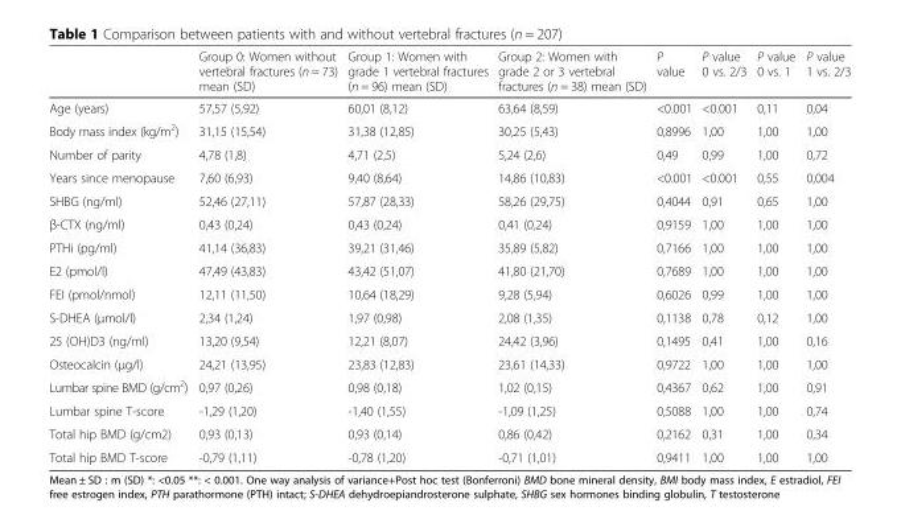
<table><thead><tr><td></td><td>Group 0: Women without vertebral fractures (n = 73) mean (SD)</td><td>Group 1: Women with grade 1 vertebral fractures (n = 96) mean (SD)</td><td>Group 2: Women with grade 2 or 3 vertebral fractures (n = 38) mean (SD)</td><td>P value</td><td>P value 0 vs. 2/3</td><td>P value 0 vs. 1</td><td>P value 1 vs. 2/3</td></tr></thead><tbody><tr><td>Age (years)</td><td>57,57 (5,92)</td><td>60,01 (8,12)</td><td>63,64 (8,59)</td><td>&lt;0.001</td><td>&lt;0.001</td><td>0,11</td><td>0,04</td></tr><tr><td>Body mass index (kg/m<sup>2</sup>)</td><td>31,15 (15,54)</td><td>31,38 (12,85)</td><td>30,25 (5,43)</td><td>0,8996</td><td>1,00</td><td>1,00</td><td>1,00</td></tr><tr><td>Number of parity</td><td>4,78 (1,8)</td><td>4,71 (2,5)</td><td>5,24 (2,6)</td><td>0,49</td><td>0,99</td><td>1,00</td><td>0,72</td></tr><tr><td>Years since menopause</td><td>7,60 (6,93)</td><td>9,40 (8,64)</td><td>14,86 (10,83)</td><td>&lt;0.001</td><td>&lt;0.001</td><td>0,55</td><td>0,004</td></tr><tr><td>SHBG (ng/ml)</td><td>52,46 (27,11)</td><td>57,87 (28,33)</td><td>58,26 (29,75)</td><td>0,4044</td><td>0,91</td><td>0,65</td><td>1,00</td></tr><tr><td>β-CTX (ng/ml)</td><td>0,43 (0,24)</td><td>0,43 (0,24)</td><td>0,41 (0,24)</td><td>0,9159</td><td>1,00</td><td>1,00</td><td>1,00</td></tr><tr><td>PTHi (pg/ml)</td><td>41,14 (36,83)</td><td>39,21 (31,46)</td><td>35,89 (5,82)</td><td>0,7166</td><td>1,00</td><td>1,00</td><td>1,00</td></tr><tr><td>E2 (pmol/l)</td><td>47,49 (43,83)</td><td>43,42 (51,07)</td><td>41,80 (21,70)</td><td>0,7689</td><td>1,00</td><td>1,00</td><td>1,00</td></tr><tr><td>FEI (pmol/nmol)</td><td>12,11 (11,50)</td><td>10,64 (18,29)</td><td>9,28 (5,94)</td><td>0,6026</td><td>0,99</td><td>1,00</td><td>1,00</td></tr><tr><td>S-DHEA (μmol/l)</td><td>2,34 (1,24)</td><td>1,97 (0,98)</td><td>2,08 (1,35)</td><td>0,1138</td><td>0,78</td><td>0,12</td><td>1,00</td></tr><tr><td>25 (OH)D3 (ng/ml)</td><td>13,20 (9,54)</td><td>12,21 (8,07)</td><td>24,42 (3,96)</td><td>0,1495</td><td>0,41</td><td>1,00</td><td>0,16</td></tr><tr><td>Osteocalcin (μg/l)</td><td>24,21 (13,95)</td><td>23,83 (12,83)</td><td>23,61 (14,33)</td><td>0,9722</td><td>1,00</td><td>1,00</td><td>1,00</td></tr><tr><td>Lumbar spine BMD (g/cm<sup>2</sup>)</td><td>0,97 (0,26)</td><td>0,98 (0,18)</td><td>1,02 (0,15)</td><td>0,4367</td><td>0,62</td><td>1,00</td><td>0,91</td></tr><tr><td>Lumbar spine T-score</td><td>-1,29 (1,20)</td><td>-1,40 (1,55)</td><td>-1,09 (1,25)</td><td>0,5088</td><td>1,00</td><td>1,00</td><td>0,74</td></tr><tr><td>Total hip BMD (g/cm2)</td><td>0,93 (0,13)</td><td>0,93 (0,14)</td><td>0,86 (0,42)</td><td>0,2162</td><td>0,31</td><td>1,00</td><td>0,34</td></tr><tr><td>Total hip BMD T-score</td><td>-0,79 (1,11)</td><td>-0,78 (1,20)</td><td>-0,71 (1,01)</td><td>0,9411</td><td>1,00</td><td>1,00</td><td>1,00</td></tr></tbody></table>